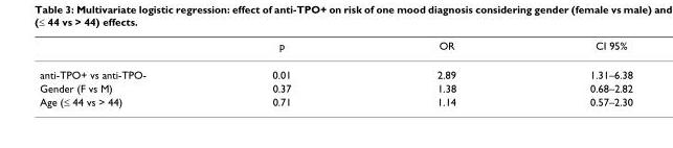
<table><thead><tr><td></td><td>p</td><td>OR</td><td>CI 95%</td></tr></thead><tbody><tr><td>anti-TPO+ vs anti-TPO-</td><td>0.01</td><td>2.89</td><td>1.31–6.38</td></tr><tr><td>Gender (F vs M)</td><td>0.37</td><td>1.38</td><td>0.68–2.82</td></tr><tr><td>Age (≤ 44 vs &gt; 44)</td><td>0.71</td><td>1.14</td><td>0.57–2.30</td></tr></tbody></table>